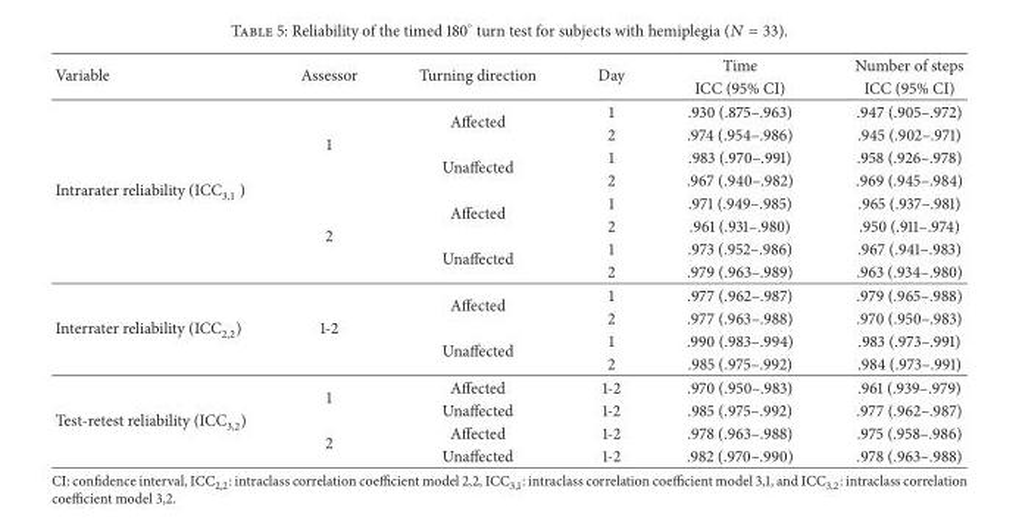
<table><thead><tr><td rowspan="2">Variable</td><td rowspan="2">Assessor</td><td rowspan="2">Turning direction</td><td rowspan="2">Day</td><td rowspan="2">Time ICC (95% CI)</td><td rowspan="2">Number of steps ICC (95% CI)</td></tr><tr></tr></thead><tbody><tr><td rowspan="8">Intrarater reliability (ICC<sub>3,1</sub> )</td><td rowspan="4">1</td><td rowspan="2">Affected</td><td>1</td><td>.930 (.875–.963)</td><td>.947 (.905–.972)</td></tr><tr><td>2</td><td>.974 (.954–.986)</td><td>.945 (.902–.971)</td></tr><tr><td rowspan="2">Unaffected</td><td>1</td><td>.983 (.970–.991)</td><td>.958 (.926–.978)</td></tr><tr><td>2</td><td>.967 (.940–.982)</td><td>.969 (.945–.984)</td></tr><tr><td rowspan="4">2</td><td rowspan="2">Affected</td><td>1</td><td>.971 (.949–.985)</td><td>.965 (.937–.981)</td></tr><tr><td>2</td><td>.961 (.931–.980)</td><td>.950 (.911–.974)</td></tr><tr><td rowspan="2">Unaffected</td><td>1</td><td>.973 (.952–.986)</td><td>.967 (.941–.983)</td></tr><tr><td>2</td><td>.979 (.963–.989)</td><td>.963 (.934–.980)</td></tr><tr><td rowspan="4">Interrater reliability (ICC<sub>2,2</sub>)</td><td rowspan="4">1-2</td><td rowspan="2">Affected</td><td>1</td><td>.977 (.962–.987)</td><td>.979 (.965–.988)</td></tr><tr><td>2</td><td>.977 (.963–.988)</td><td>.970 (.950–.983)</td></tr><tr><td rowspan="2">Unaffected</td><td>1</td><td>.990 (.983–.994)</td><td>.983 (.973–.991)</td></tr><tr><td>2</td><td>.985 (.975–.992)</td><td>.984 (.973–.991)</td></tr><tr><td rowspan="4">Test-retest reliability (ICC<sub>3,2</sub>)</td><td rowspan="2">1</td><td>Affected</td><td>1-2</td><td>.970 (.950–.983)</td><td>.961 (.939–.979)</td></tr><tr><td>Unaffected</td><td>1-2</td><td>.985 (.975–.992)</td><td>.977 (.962–.987)</td></tr><tr><td rowspan="2">2</td><td>Affected</td><td>1-2</td><td>.978 (.963–.988)</td><td>.975 (.958–.986)</td></tr><tr><td>Unaffected</td><td>1-2</td><td>.982 (.970–.990)</td><td>.978 (.963–.988)</td></tr></tbody></table>